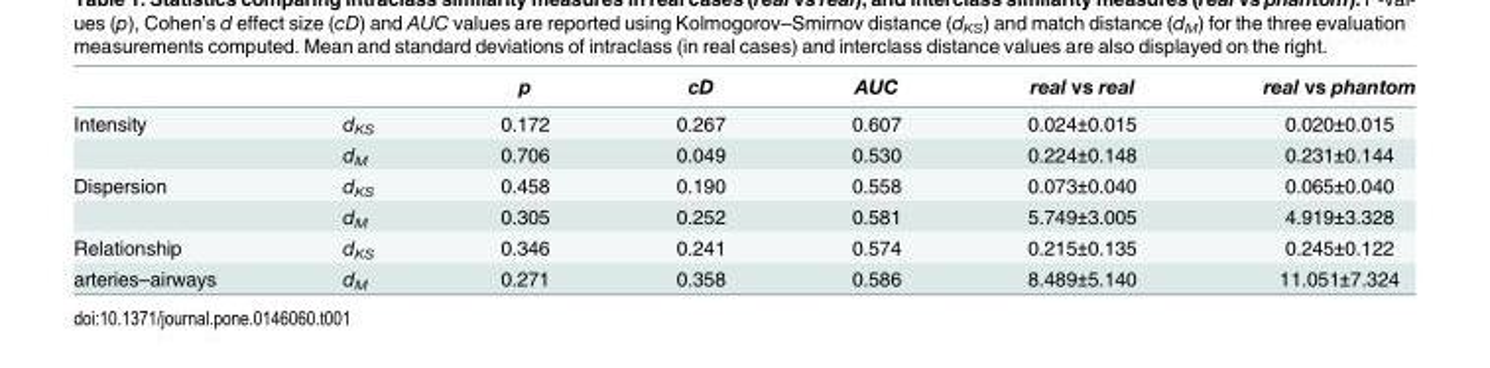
<table><thead><tr><td></td><td></td><td>p</td><td>cD</td><td>AUC</td><td>real vs real</td><td>real vs phantom</td></tr></thead><tbody><tr><td rowspan="2">Intensity</td><td>d<sub>KS</sub></td><td>0.172</td><td>0.267</td><td>0.607</td><td>0.024±0.015</td><td>0.020±0.015</td></tr><tr><td>d<sub>M</sub></td><td>0.706</td><td>0.049</td><td>0.530</td><td>0.224±0.148</td><td>0.231±0.144</td></tr><tr><td rowspan="2">Dispersion</td><td>d<sub>KS</sub></td><td>0.458</td><td>0.190</td><td>0.558</td><td>0.073±0.040</td><td>0.065±0.040</td></tr><tr><td>d<sub>M</sub></td><td>0.305</td><td>0.252</td><td>0.581</td><td>5.749±3.005</td><td>4.919±3.328</td></tr><tr><td>Relationship</td><td>d<sub>KS</sub></td><td>0.346</td><td>0.241</td><td>0.574</td><td>0.215±0.135</td><td>0.245±0.122</td></tr><tr><td>arteries–airways</td><td>d<sub>M</sub></td><td>0.271</td><td>0.358</td><td>0.586</td><td>8.489±5.140</td><td>11.051±7.324</td></tr></tbody></table>